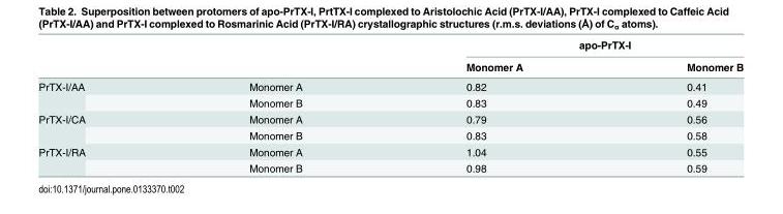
<table><thead><tr><td rowspan="2"></td><td rowspan="2"></td><td colspan="2">apo-PrTX-I</td></tr><tr><td>Monomer A</td><td>Monomer B</td></tr></thead><tbody><tr><td rowspan="2">PrTX-I/AA</td><td>Monomer A</td><td>0.82</td><td>0.41</td></tr><tr><td>Monomer B</td><td>0.83</td><td>0.49</td></tr><tr><td rowspan="2">PrTX-I/CA</td><td>Monomer A</td><td>0.79</td><td>0.56</td></tr><tr><td>Monomer B</td><td>0.83</td><td>0.58</td></tr><tr><td rowspan="2">PrTX-I/RA</td><td>Monomer A</td><td>1.04</td><td>0.55</td></tr><tr><td>Monomer B</td><td>0.98</td><td>0.59</td></tr></tbody></table>